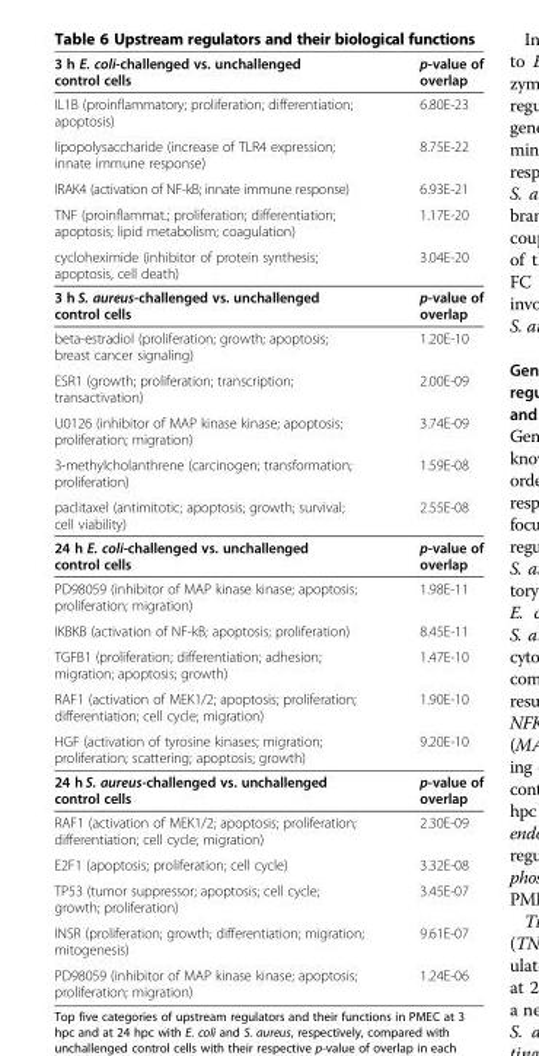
<table><thead><tr><td>3 h E. coli-challenged vs. unchallenged control cells</td><td>p-value of overlap</td></tr></thead><tbody><tr><td>IL1B (proinflammatory; proliferation; differentiation; apoptosis)</td><td>6.80E-23</td></tr><tr><td>lipopolysaccharide (increase of TLR4 expression; innate immune response)</td><td>8.75E-22</td></tr><tr><td>IRAK4 (activation of NF-kB; innate immune response)</td><td>6.93E-21</td></tr><tr><td>TNF (proinflammat.; proliferation; differentiation; apoptosis; lipid metabolism; coagulation)</td><td>1.17E-20</td></tr><tr><td>cycloheximide (inhibitor of protein synthesis; apoptosis, cell death)</td><td>3.04E-20</td></tr><tr><td>3 h S. aureus-challenged vs. unchallenged control cells</td><td>p-value of overlap</td></tr><tr><td>beta-estradiol (proliferation; growth; apoptosis; breast cancer signaling)</td><td>1.20E-10</td></tr><tr><td>ESR1 (growth; proliferation; transcription; transactivation)</td><td>2.00E-09</td></tr><tr><td>U0126 (inhibitor of MAP kinase kinase; apoptosis; proliferation; migration)</td><td>3.74E-09</td></tr><tr><td>3-methylcholanthrene (carcinogen; transformation; proliferation)</td><td>1.59E-08</td></tr><tr><td>paclitaxel (antimitotic; apoptosis; growth; survival; cell viability)</td><td>2.55E-08</td></tr><tr><td>24 h E. coli-challenged vs. unchallenged control cells</td><td>p-value of overlap</td></tr><tr><td>PD98059 (inhibitor of MAP kinase kinase; apoptosis; proliferation; migration)</td><td>1.98E-11</td></tr><tr><td>IKBKB (activation of NF-kB; apoptosis; proliferation)</td><td>8.45E-11</td></tr><tr><td>TGFB1 (proliferation; differentiation; adhesion; migration; apoptosis; growth)</td><td>1.47E-10</td></tr><tr><td>RAF1 (activation of MEK1/2; apoptosis; proliferation; differentiation; cell cycle; migration)</td><td>1.90E-10</td></tr><tr><td>HGF (activation of tyrosine kinases; migration; proliferation; scattering; apoptosis; growth)</td><td>9.20E-10</td></tr><tr><td>24 h S. aureus-challenged vs. unchallenged control cells</td><td>p-value of overlap</td></tr><tr><td>RAF1 (activation of MEK1/2; apoptosis; proliferation; differentiation; cell cycle; migration)</td><td>2.30E-09</td></tr><tr><td>E2F1 (apoptosis; proliferation; cell cycle)</td><td>3.32E-08</td></tr><tr><td>TP53 (tumor suppressor; apoptosis; cell cycle; growth; proliferation)</td><td>3.45E-07</td></tr><tr><td>INSR (proliferation; growth; differentiation; migration; mitogenesis)</td><td>9.61E-07</td></tr><tr><td>PD98059 (inhibitor of MAP kinase kinase; apoptosis; proliferation; migration)</td><td>1.24E-06</td></tr></tbody></table>